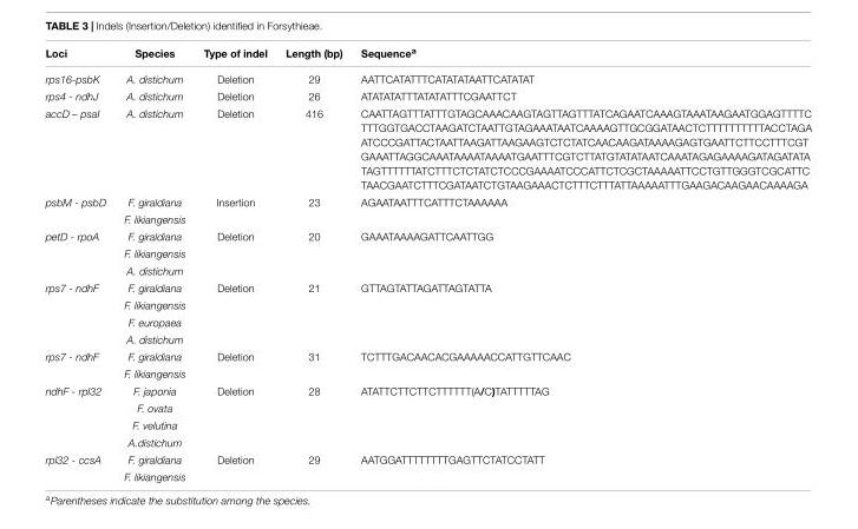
<table><thead><tr><td>Loci</td><td>Species</td><td>Type of indel</td><td>Length (bp)</td><td>Sequence<sup>a</sup></td></tr></thead><tbody><tr><td>rps16-psbK</td><td>A. distichum</td><td>Deletion</td><td>29</td><td>AATTCATATTTCATATATAATTCATATAT</td></tr><tr><td>rps4 - ndhJ</td><td>A. distichum</td><td>Deletion</td><td>26</td><td>ATATATATTTATATATTTCGAATTCT</td></tr><tr><td>accD – psaI</td><td>A. distichum</td><td>Deletion</td><td>416</td><td>CAATTAGTTTATTTGTAGCAAACAAGTAGTTAGTTTATCAGAATCAAAGTAAATAAGAATGGAGTTTTC TTTGGTGACCTAAGATCTAATTGTAGAAATAATCAAAAGTTGCGGATAACTCTTTTTTTTTTACCTAGA ATCCCGATTACTAATTAAGATTAAGAAGTCTCTATCAACAAGATAAAAGAGTGAATTCTTCCTTTCGT GAAATTAGGCAAATAAAATAAAATGAATTTCGTCTTATGTATATAATCAAATAGAGAAAAGATAGATATA TAGTTTTTTATCTTTCTCTATCTCCCGAAAATCCCATTCTCGCTAAAAATTCCTGTTGGGTCGCATTC TAACGAATCTTTCGATAATCTGTAAGAAACTCTTTCTTTATTAAAAATTTGAAGACAAGAACAAAAGA</td></tr><tr><td rowspan="2">psbM - psbD</td><td>F. giraldiana</td><td>Insertion</td><td>23</td><td>AGAATAATTTCATTTCTAAAAAA</td></tr><tr><td>F. likiangensis</td><td></td><td></td><td></td></tr><tr><td rowspan="3">petD - rpoA</td><td>F. giraldiana</td><td>Deletion</td><td>20</td><td>GAAATAAAAGATTCAATTGG</td></tr><tr><td>F. likiangensis</td><td></td><td></td><td></td></tr><tr><td>A. distichum</td><td></td><td></td><td></td></tr><tr><td rowspan="4">rps7 - ndhF</td><td>F. giraldiana</td><td>Deletion</td><td>21</td><td>GTTAGTATTAGATTAGTATTA</td></tr><tr><td>F. likiangensis</td><td></td><td></td><td></td></tr><tr><td>F. europaea</td><td></td><td></td><td></td></tr><tr><td>A. distichum</td><td></td><td></td><td></td></tr><tr><td rowspan="2">rps7 - ndhF</td><td>F. giraldiana</td><td>Deletion</td><td>31</td><td>TCTTTGACAACACGAAAAACCATTGTTCAAC</td></tr><tr><td>F. likiangensis</td><td></td><td></td><td></td></tr><tr><td rowspan="4">ndhF - rpl32</td><td>F. japonia</td><td>Deletion</td><td>28</td><td>ATATTCTTCTTCTTTTTT(A/C)TATTTTTAG</td></tr><tr><td>F. ovata</td><td></td><td></td><td></td></tr><tr><td>F. velutina</td><td></td><td></td><td></td></tr><tr><td>A.distichum</td><td></td><td></td><td></td></tr><tr><td rowspan="2">rpl32 - ccsA</td><td>F. giraldiana</td><td>Deletion</td><td>29</td><td>AATGGATTTTTTTTGAGTTCTATCCTATT</td></tr><tr><td>F. likiangensis</td><td></td><td></td><td></td></tr></tbody></table>